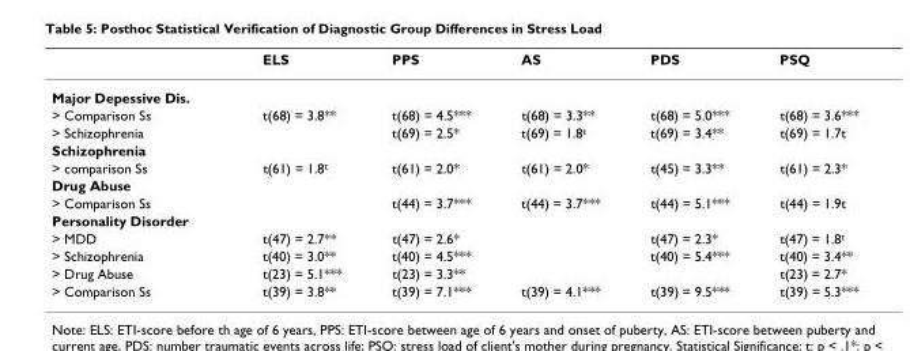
<table><thead><tr><td></td><td>ELS</td><td>PPS</td><td>AS</td><td>PDS</td><td>PSQ</td></tr></thead><tbody><tr><td colspan="6">Major Depessive Dis.</td></tr><tr><td>&gt; Comparison Ss</td><td>t(68) = 3.8**</td><td>t(68) = 4.5***</td><td>t(68) = 3.3**</td><td>t(68) = 5.0***</td><td>t(68) = 3.6***</td></tr><tr><td>&gt; Schizophrenia</td><td></td><td>t(69) = 2.5*</td><td>t(69) = 1.8<sup>t</sup></td><td>t(69) = 3.4**</td><td>t(69) = 1.7t</td></tr><tr><td colspan="6">Schizophrenia</td></tr><tr><td>&gt; comparison Ss</td><td>t(61) = 1.8<sup>t</sup></td><td>t(61) = 2.0*</td><td>t(61) = 2.0*</td><td>t(45) = 3.3**</td><td>t(61) = 2.3*</td></tr><tr><td colspan="6">Drug Abuse</td></tr><tr><td>&gt; Comparison Ss</td><td></td><td>t(44) = 3.7***</td><td>t(44) = 3.7***</td><td>t(44) = 5.1***</td><td>t(44) = 1.9t</td></tr><tr><td colspan="6">Personality Disorder</td></tr><tr><td>&gt; MDD</td><td>t(47) = 2.7**</td><td>t(47) = 2.6*</td><td></td><td>t(47) = 2.3*</td><td>t(47) = 1.8<sup>t</sup></td></tr><tr><td>&gt; Schizophrenia</td><td>t(40) = 3.0**</td><td>t(40) = 4.5***</td><td></td><td>t(40) = 5.4***</td><td>t(40) = 3.4**</td></tr><tr><td>&gt; Drug Abuse</td><td>t(23) = 5.1***</td><td>t(23) = 3.3**</td><td></td><td></td><td>t(23) = 2.7*</td></tr><tr><td>&gt; Comparison Ss</td><td>t(39) = 3.8**</td><td>t(39) = 7.1***</td><td>t(39) = 4.1***</td><td>t(39) = 9.5***</td><td>t(39) = 5.3***</td></tr></tbody></table>